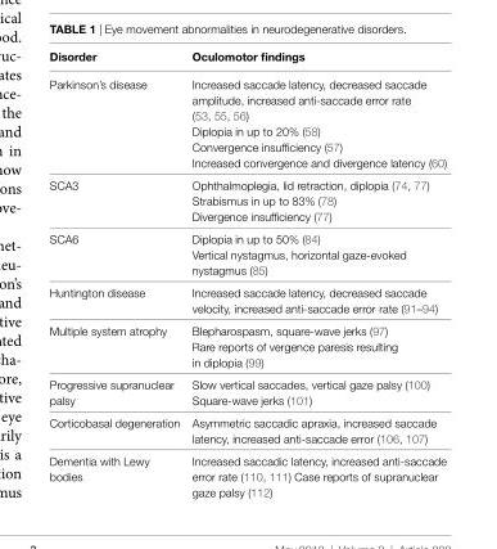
<table><thead><tr><td>Disorder</td><td>Oculomotor findings</td></tr></thead><tbody><tr><td>Parkinson’s disease</td><td>Increased saccade latency, decreased saccade amplitude, increased anti-saccade error rate (53, 55, 56) Diplopia in up to 20% (58) Convergence insufficiency (57) Increased convergence and divergence latency (60)</td></tr><tr><td>SCA3</td><td>Ophthalmoplegia, lid retraction, diplopia (74, 77) Strabismus in up to 83% (78) Divergence insufficiency (77)</td></tr><tr><td>SCA6</td><td>Diplopia in up to 50% (84) Vertical nystagmus, horizontal gaze-evoked nystagmus (85)</td></tr><tr><td>Huntington disease</td><td>Increased saccade latency, decreased saccade velocity, increased anti-saccade error rate (91–94)</td></tr><tr><td>Multiple system atrophy</td><td>Blepharospasm, square-wave jerks (97) Rare reports of vergence paresis resulting in diplopia (99)</td></tr><tr><td>Progressive supranuclear palsy</td><td>Slow vertical saccades, vertical gaze palsy (100) Square-wave jerks (101)</td></tr><tr><td>Corticobasal degeneration</td><td>Asymmetric saccadic apraxia, increased saccade latency, increased anti-saccade error (106, 107)</td></tr><tr><td>Dementia with Lewy bodies</td><td>Increased saccadic latency, increased anti-saccade error rate (110, 111) Case reports of supranuclear gaze palsy (112)</td></tr></tbody></table>